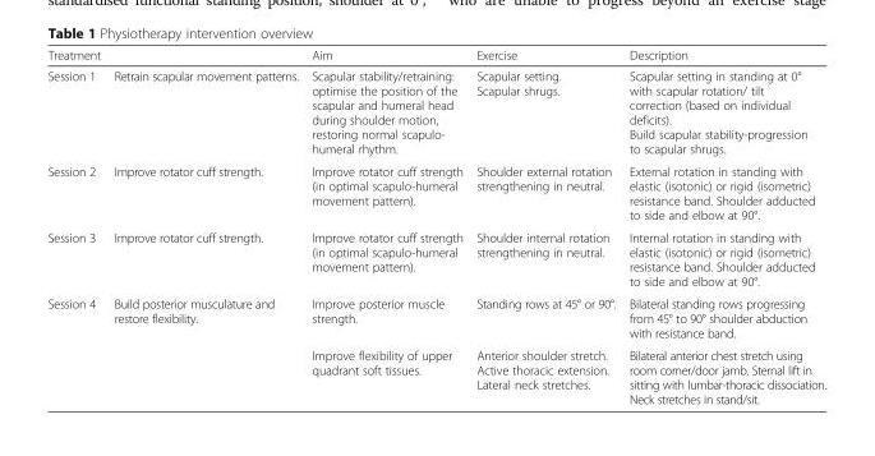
<table><thead><tr><td>Treatment</td><td></td><td>Aim</td><td>Exercise</td><td>Description</td></tr></thead><tbody><tr><td>Session 1</td><td>Retrain scapular movement patterns.</td><td>Scapular stability/retraining: optimise the position of the scapular and humeral head during shoulder motion, restoring normal scapulo- humeral rhythm.</td><td>Scapular setting. Scapular shrugs.</td><td>Scapular setting in standing at 0° with scapular rotation/ tilt correction (based on individual deficits). Build scapular stability-progression to scapular shrugs.</td></tr><tr><td>Session 2</td><td>Improve rotator cuff strength.</td><td>Improve rotator cuff strength (in optimal scapulo-humeral movement pattern).</td><td>Shoulder external rotation strengthening in neutral.</td><td>External rotation in standing with elastic (isotonic) or rigid (isometric) resistance band. Shoulder adducted to side and elbow at 90°.</td></tr><tr><td>Session 3</td><td>Improve rotator cuff strength.</td><td>Improve rotator cuff strength (in optimal scapulo-humeral movement pattern).</td><td>Shoulder internal rotation strengthening in neutral.</td><td>Internal rotation in standing with elastic (isotonic) or rigid (isometric) resistance band. Shoulder adducted to side and elbow at 90°.</td></tr><tr><td rowspan="2">Session 4</td><td rowspan="2">Build posterior musculature and restore flexibility.</td><td>Improve posterior muscle strength.</td><td>Standing rows at 45° or 90°.</td><td>Bilateral standing rows progressing from 45° to 90° shoulder abduction with resistance band.</td></tr><tr><td>Improve flexibility of upper quadrant soft tissues.</td><td>Anterior shoulder stretch. Active thoracic extension. Lateral neck stretches.</td><td>Bilateral anterior chest stretch using room corner/door jamb. Sternal lift in sitting with lumbar-thoracic dissociation. Neck stretches in stand/sit.</td></tr></tbody></table>